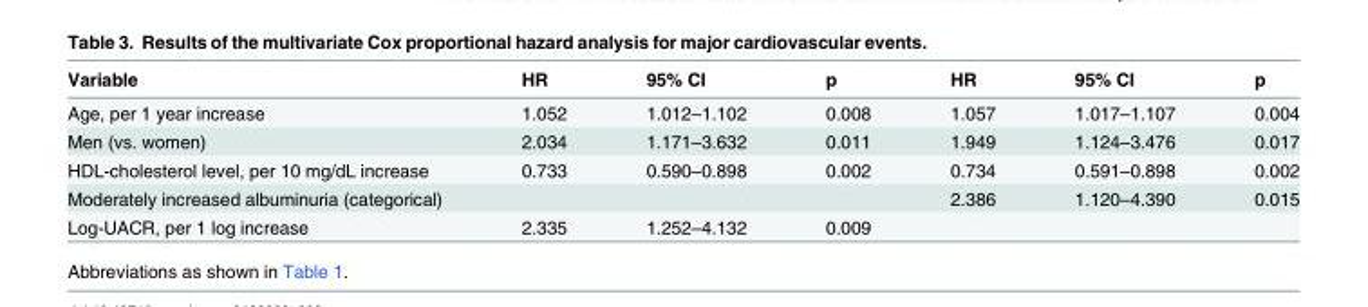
<table><thead><tr><td>Variable</td><td>HR</td><td>95% CI</td><td>p</td><td>HR</td><td>95% CI</td><td>p</td></tr></thead><tbody><tr><td>Age, per 1 year increase</td><td>1.052</td><td>1.012–1.102</td><td>0.008</td><td>1.057</td><td>1.017–1.107</td><td>0.004</td></tr><tr><td>Men (vs. women)</td><td>2.034</td><td>1.171–3.632</td><td>0.011</td><td>1.949</td><td>1.124–3.476</td><td>0.017</td></tr><tr><td>HDL-cholesterol level, per 10 mg/dL increase</td><td>0.733</td><td>0.590–0.898</td><td>0.002</td><td>0.734</td><td>0.591–0.898</td><td>0.002</td></tr><tr><td>Moderately increased albuminuria (categorical)</td><td></td><td></td><td></td><td>2.386</td><td>1.120–4.390</td><td>0.015</td></tr><tr><td>Log-UACR, per 1 log increase</td><td>2.335</td><td>1.252–4.132</td><td>0.009</td><td></td><td></td><td></td></tr></tbody></table>